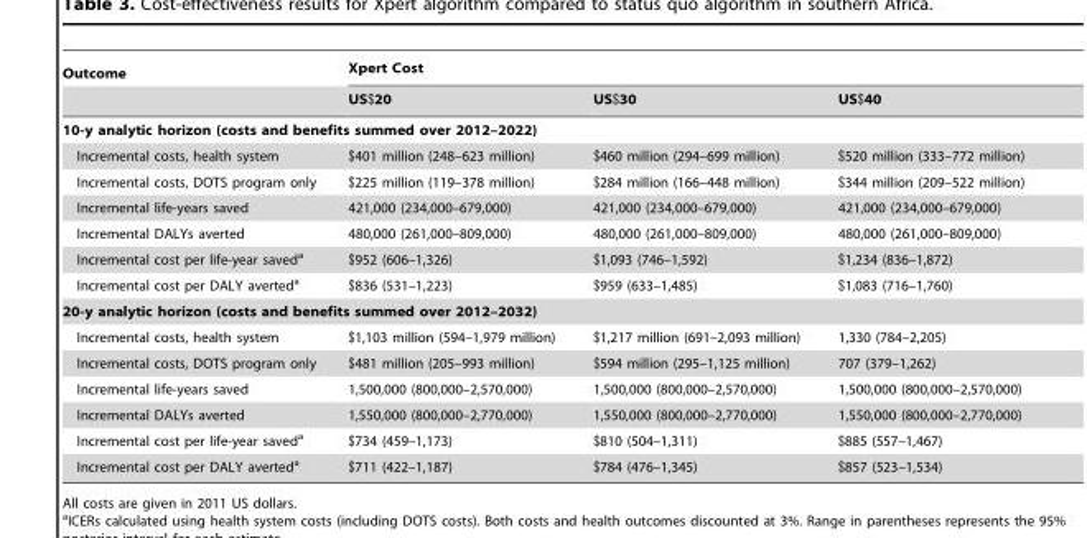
<table><thead><tr><td rowspan="2">Outcome</td><td colspan="3">Xpert Cost</td></tr><tr><td>US$20</td><td>US$30</td><td>US$40</td></tr></thead><tbody><tr><td colspan="4">10-y analytic horizon (costs and benefits summed over 2012–2022)</td></tr><tr><td>Incremental costs, health system</td><td>$401 million (248–623 million)</td><td>$460 million (294–699 million)</td><td>$520 million (333–772 million)</td></tr><tr><td>Incremental costs, DOTS program only</td><td>$225 million (119–378 million)</td><td>$284 million (166–448 million)</td><td>$344 million (209–522 million)</td></tr><tr><td>Incremental life-years saved</td><td>421,000 (234,000–679,000)</td><td>421,000 (234,000–679,000)</td><td>421,000 (234,000–679,000)</td></tr><tr><td>Incremental DALYs averted</td><td>480,000 (261,000–809,000)</td><td>480,000 (261,000–809,000)</td><td>480,000 (261,000–809,000)</td></tr><tr><td>Incremental cost per life-year saved<sup>a</sup></td><td>$952 (606–1,326)</td><td>$1,093 (746–1,592)</td><td>$1,234 (836–1,872)</td></tr><tr><td>Incremental cost per DALY averted<sup>a</sup></td><td>$836 (531–1,223)</td><td>$959 (633–1,485)</td><td>$1,083 (716–1,760)</td></tr><tr><td colspan="4">20-y analytic horizon (costs and benefits summed over 2012–2032)</td></tr><tr><td>Incremental costs, health system</td><td>$1,103 million (594–1,979 million)</td><td>$1,217 million (691–2,093 million)</td><td>1,330 (784–2,205)</td></tr><tr><td>Incremental costs, DOTS program only</td><td>$481 million (205–993 million)</td><td>$594 million (295–1,125 million)</td><td>707 (379–1,262)</td></tr><tr><td>Incremental life-years saved</td><td>1,500,000 (800,000–2,570,000)</td><td>1,500,000 (800,000–2,570,000)</td><td>1,500,000 (800,000–2,570,000)</td></tr><tr><td>Incremental DALYs averted</td><td>1,550,000 (800,000–2,770,000)</td><td>1,550,000 (800,000–2,770,000)</td><td>1,550,000 (800,000–2,770,000)</td></tr><tr><td>Incremental cost per life-year saved<sup>a</sup></td><td>$734 (459–1,173)</td><td>$810 (504–1,311)</td><td>$885 (557–1,467)</td></tr><tr><td>Incremental cost per DALY averted<sup>a</sup></td><td>$711 (422–1,187)</td><td>$784 (476–1,345)</td><td>$857 (523–1,534)</td></tr></tbody></table>